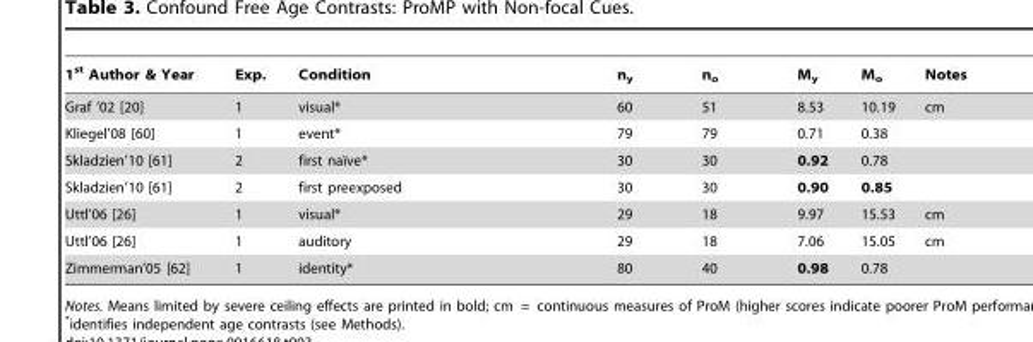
<table><thead><tr><td>1<sup>st</sup> Author &amp; Year</td><td>Exp.</td><td>Condition</td><td>n<sub>y</sub></td><td>n<sub>o</sub></td><td>M<sub>y</sub></td><td>M<sub>o</sub></td><td>Notes</td></tr></thead><tbody><tr><td>Graf ’02 [20]</td><td>1</td><td>visual*</td><td>60</td><td>51</td><td>8.53</td><td>10.19</td><td>cm</td></tr><tr><td>Kliegel’08 [60]</td><td>1</td><td>event*</td><td>79</td><td>79</td><td>0.71</td><td>0.38</td><td></td></tr><tr><td>Skladzien’10 [61]</td><td>2</td><td>first naı¨ve*</td><td>30</td><td>30</td><td>0.92</td><td>0.78</td><td></td></tr><tr><td>Skladzien’10 [61]</td><td>2</td><td>first preexposed</td><td>30</td><td>30</td><td>0.90</td><td>0.85</td><td></td></tr><tr><td>Uttl’06 [26]</td><td>1</td><td>visual*</td><td>29</td><td>18</td><td>9.97</td><td>15.53</td><td>cm</td></tr><tr><td>Uttl’06 [26]</td><td>1</td><td>auditory</td><td>29</td><td>18</td><td>7.06</td><td>15.05</td><td>cm</td></tr><tr><td>Zimmerman’05 [62]</td><td>1</td><td>identity*</td><td>80</td><td>40</td><td>0.98</td><td>0.78</td><td></td></tr></tbody></table>